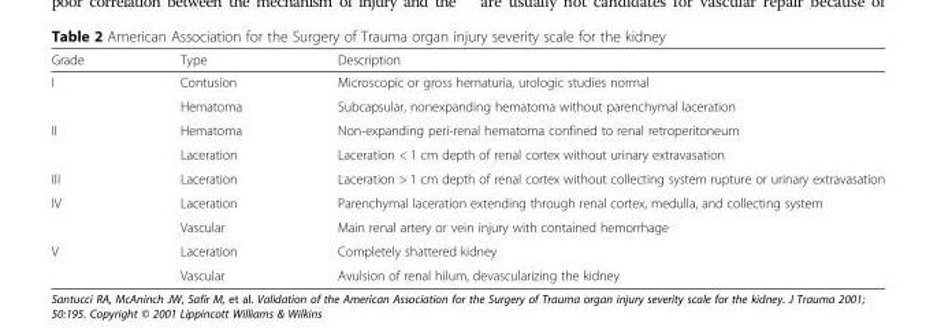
<table><thead><tr><td>Grade</td><td>Type</td><td>Description</td></tr></thead><tbody><tr><td rowspan="2">I</td><td>Contusion</td><td>Microscopic or gross hematuria, urologic studies normal</td></tr><tr><td>Hematoma</td><td>Subcapsular, nonexpanding hematoma without parenchymal laceration</td></tr><tr><td rowspan="2">II</td><td>Hematoma</td><td>Non-expanding peri-renal hematoma confined to renal retroperitoneum</td></tr><tr><td>Laceration</td><td>Laceration &lt; 1 cm depth of renal cortex without urinary extravasation</td></tr><tr><td>III</td><td>Laceration</td><td>Laceration &gt; 1 cm depth of renal cortex without collecting system rupture or urinary extravasation</td></tr><tr><td rowspan="2">IV</td><td>Laceration</td><td>Parenchymal laceration extending through renal cortex, medulla, and collecting system</td></tr><tr><td>Vascular</td><td>Main renal artery or vein injury with contained hemorrhage</td></tr><tr><td rowspan="2">V</td><td>Laceration</td><td>Completely shattered kidney</td></tr><tr><td>Vascular</td><td>Avulsion of renal hilum, devascularizing the kidney</td></tr></tbody></table>